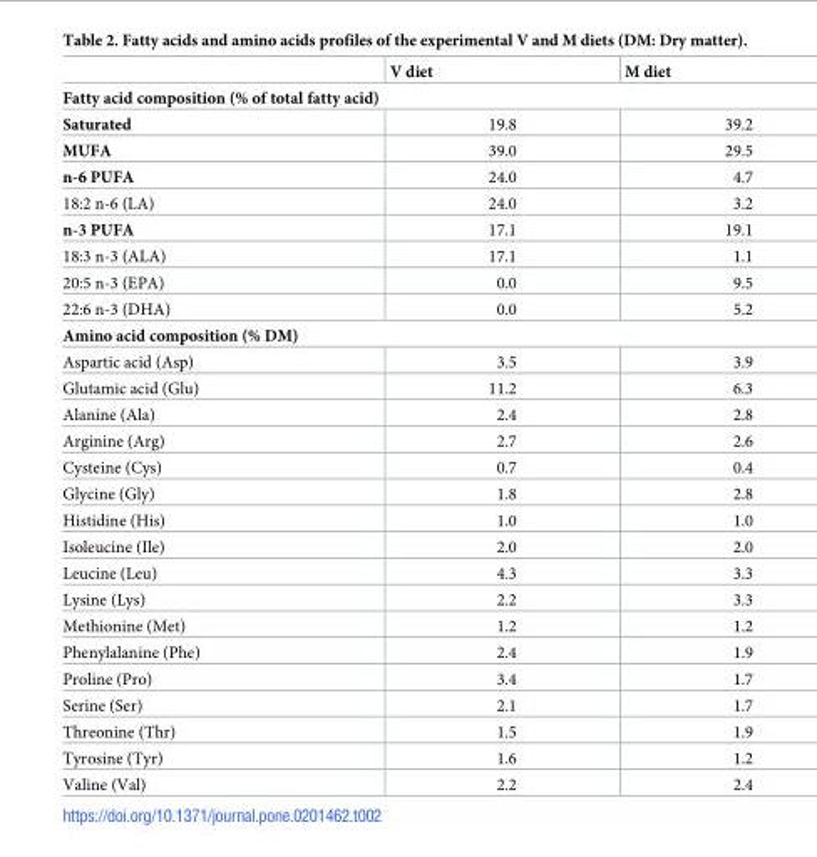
<table><thead><tr><td></td><td>V diet</td><td>M diet</td></tr></thead><tbody><tr><td colspan="3">Fatty acid composition (% of total fatty acid)</td></tr><tr><td>Saturated</td><td>19.8</td><td>39.2</td></tr><tr><td>MUFA</td><td>39.0</td><td>29.5</td></tr><tr><td>n-6 PUFA</td><td>24.0</td><td>4.7</td></tr><tr><td>18:2 n-6 (LA)</td><td>24.0</td><td>3.2</td></tr><tr><td>n-3 PUFA</td><td>17.1</td><td>19.1</td></tr><tr><td>18:3 n-3 (ALA)</td><td>17.1</td><td>1.1</td></tr><tr><td>20:5 n-3 (EPA)</td><td>0.0</td><td>9.5</td></tr><tr><td>22:6 n-3 (DHA)</td><td>0.0</td><td>5.2</td></tr><tr><td colspan="3">Amino acid composition (% DM)</td></tr><tr><td>Aspartic acid (Asp)</td><td>3.5</td><td>3.9</td></tr><tr><td>Glutamic acid (Glu)</td><td>11.2</td><td>6.3</td></tr><tr><td>Alanine (Ala)</td><td>2.4</td><td>2.8</td></tr><tr><td>Arginine (Arg)</td><td>2.7</td><td>2.6</td></tr><tr><td>Cysteine (Cys)</td><td>0.7</td><td>0.4</td></tr><tr><td>Glycine (Gly)</td><td>1.8</td><td>2.8</td></tr><tr><td>Histidine (His)</td><td>1.0</td><td>1.0</td></tr><tr><td>Isoleucine (Ile)</td><td>2.0</td><td>2.0</td></tr><tr><td>Leucine (Leu)</td><td>4.3</td><td>3.3</td></tr><tr><td>Lysine (Lys)</td><td>2.2</td><td>3.3</td></tr><tr><td>Methionine (Met)</td><td>1.2</td><td>1.2</td></tr><tr><td>Phenylalanine (Phe)</td><td>2.4</td><td>1.9</td></tr><tr><td>Proline (Pro)</td><td>3.4</td><td>1.7</td></tr><tr><td>Serine (Ser)</td><td>2.1</td><td>1.7</td></tr><tr><td>Threonine (Thr)</td><td>1.5</td><td>1.9</td></tr><tr><td>Tyrosine (Tyr)</td><td>1.6</td><td>1.2</td></tr><tr><td>Valine (Val)</td><td>2.2</td><td>2.4</td></tr></tbody></table>